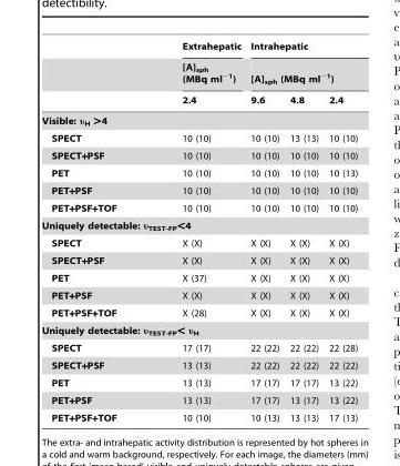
<table><thead><tr><td rowspan="3"></td><td rowspan="3">Extrahepatic [A]<sub>sph</sub> (MBq ml<sup>−1</sup>) 2.4</td><td rowspan="2" colspan="3">Intrahepatic [A]<sub>sph</sub> (MBq ml<sup>−1</sup>)</td></tr><tr></tr><tr><td>9.6</td><td>4.8</td><td>2.4</td></tr></thead><tbody><tr><td colspan="5">Visible: υ<sub>H</sub> &gt;4</td></tr><tr><td>SPECT</td><td>10 (10)</td><td>10 (10)</td><td>13 (13)</td><td>10 (10)</td></tr><tr><td>SPECT+PSF</td><td>10 (10)</td><td>10 (10)</td><td>10 (10)</td><td>10 (10)</td></tr><tr><td>PET</td><td>10 (10)</td><td>10 (10)</td><td>10 (10)</td><td>10 (13)</td></tr><tr><td>PET+PSF</td><td>10 (10)</td><td>10 (10)</td><td>10 (10)</td><td>10 (10)</td></tr><tr><td>PET+PSF+TOF</td><td>10 (10)</td><td>10 (10)</td><td>10 (10)</td><td>10 (10)</td></tr><tr><td colspan="5">Uniquely detectable: υ<sub>TEST-FP</sub>&lt;4</td></tr><tr><td>SPECT</td><td>X (X)</td><td>X (X)</td><td>X (X)</td><td>X (X)</td></tr><tr><td>SPECT+PSF</td><td>X (X)</td><td>X (X)</td><td>X (X)</td><td>X (X)</td></tr><tr><td>PET</td><td>X (37)</td><td>X (X)</td><td>X (X)</td><td>X (X)</td></tr><tr><td>PET+PSF</td><td>X (X)</td><td>X (X)</td><td>X (X)</td><td>X (X)</td></tr><tr><td>PET+PSF+TOF</td><td>X (28)</td><td>X (X)</td><td>X (X)</td><td>X (X)</td></tr><tr><td colspan="5">Uniquely detectable: υ<sub>TEST-FP</sub>&lt; υ<sub>H</sub></td></tr><tr><td>SPECT</td><td>17 (17)</td><td>22 (22)</td><td>22 (22)</td><td>22 (28)</td></tr><tr><td>SPECT+PSF</td><td>13 (13)</td><td>22 (22)</td><td>22 (22)</td><td>22 (22)</td></tr><tr><td>PET</td><td>13 (13)</td><td>17 (17)</td><td>17 (17)</td><td>13 (22)</td></tr><tr><td>PET+PSF</td><td>13 (13)</td><td>17 (17)</td><td>13 (17)</td><td>13 (22)</td></tr><tr><td>PET+PSF+TOF</td><td>10 (10)</td><td>10 (13)</td><td>13 (13)</td><td>17 (13)</td></tr></tbody></table>